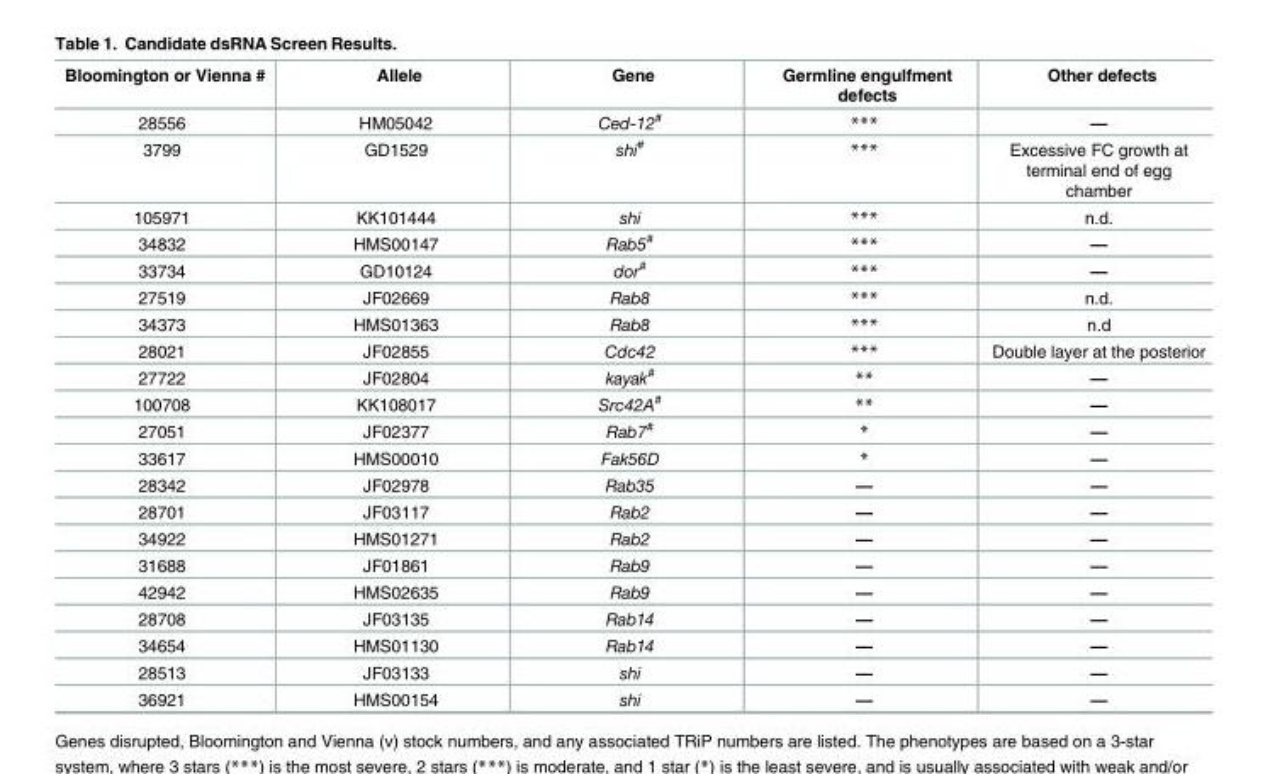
<table><thead><tr><td>Bloomington or Vienna #</td><td>Allele</td><td>Gene</td><td>Germline engulfment defects</td><td>Other defects</td></tr></thead><tbody><tr><td>28556</td><td>HM05042</td><td>Ced-12<sup>#</sup></td><td>***</td><td>—</td></tr><tr><td>3799</td><td>GD1529</td><td>shi<sup>#</sup></td><td>***</td><td>Excessive FC growth at terminal end of egg chamber</td></tr><tr><td>105971</td><td>KK101444</td><td>shi</td><td>***</td><td>n.d.</td></tr><tr><td>34832</td><td>HMS00147</td><td>Rab5<sup>#</sup></td><td>***</td><td>—</td></tr><tr><td>33734</td><td>GD10124</td><td>dor<sup>#</sup></td><td>***</td><td>—</td></tr><tr><td>27519</td><td>JF02669</td><td>Rab8</td><td>***</td><td>n.d.</td></tr><tr><td>34373</td><td>HMS01363</td><td>Rab8</td><td>***</td><td>n.d</td></tr><tr><td>28021</td><td>JF02855</td><td>Cdc42</td><td>***</td><td>Double layer at the posterior</td></tr><tr><td>27722</td><td>JF02804</td><td>kayak<sup>#</sup></td><td>**</td><td>—</td></tr><tr><td>100708</td><td>KK108017</td><td>Src42A<sup>#</sup></td><td>**</td><td>—</td></tr><tr><td>27051</td><td>JF02377</td><td>Rab7<sup>#</sup></td><td>*</td><td>—</td></tr><tr><td>33617</td><td>HMS00010</td><td>Fak56D</td><td>*</td><td>—</td></tr><tr><td>28342</td><td>JF02978</td><td>Rab35</td><td>—</td><td>—</td></tr><tr><td>28701</td><td>JF03117</td><td>Rab2</td><td>—</td><td>—</td></tr><tr><td>34922</td><td>HMS01271</td><td>Rab2</td><td>—</td><td>—</td></tr><tr><td>31688</td><td>JF01861</td><td>Rab9</td><td>—</td><td>—</td></tr><tr><td>42942</td><td>HMS02635</td><td>Rab9</td><td>—</td><td>—</td></tr><tr><td>28708</td><td>JF03135</td><td>Rab14</td><td>—</td><td>—</td></tr><tr><td>34654</td><td>HMS01130</td><td>Rab14</td><td>—</td><td>—</td></tr><tr><td>28513</td><td>JF03133</td><td>shi</td><td>—</td><td>—</td></tr><tr><td>36921</td><td>HMS00154</td><td>shi</td><td>—</td><td>—</td></tr></tbody></table>